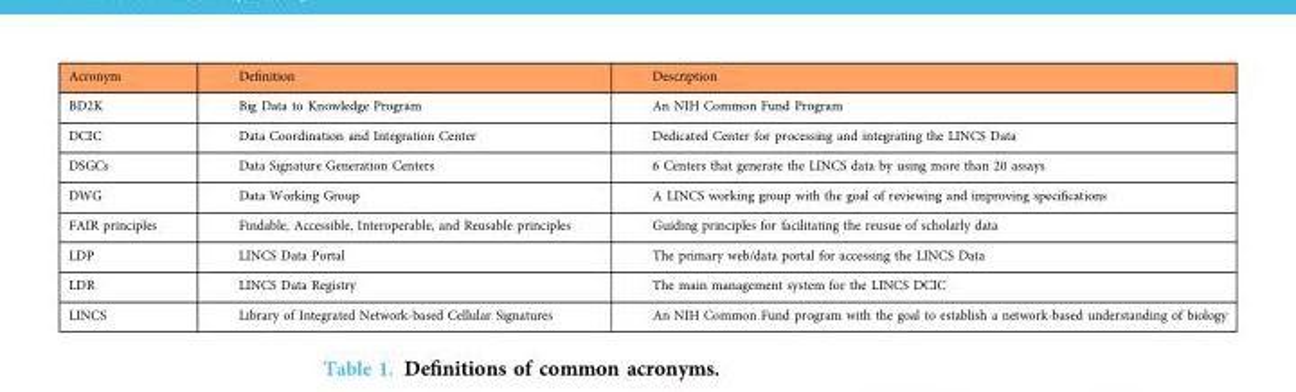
<table><thead><tr><td>Acronym</td><td>Definition</td><td>Description</td></tr></thead><tbody><tr><td>BD2K</td><td>Big Data to Knowledge Program</td><td>An NIH Common Fund Program</td></tr><tr><td>DCIC</td><td>Data Coordination and Integration Center</td><td>Dedicated Center for processing and integrating the LINCS Data</td></tr><tr><td>DSGCs</td><td>Data Signature Generation Centers</td><td>6 Centers that generate the LINCS data by using more than 20 assays</td></tr><tr><td>DWG</td><td>Data Working Group</td><td>A LINCS working group with the goal of reviewing and improving specifications</td></tr><tr><td>FAIR principles</td><td>Findable, Accessible, Interoperable, and Reusable principles</td><td>Guiding principles for facilitating the reusue of scholarly data</td></tr><tr><td>LDP</td><td>LINCS Data Portal</td><td>The primary web/data portal for accessing the LINCS Data</td></tr><tr><td>LDR</td><td>LINCS Data Registry</td><td>The main management system for the LINCS DCIC</td></tr><tr><td>LINCS</td><td>Library of Integrated Network-based Cellular Signatures</td><td>An NIH Common Fund program with the goal to establish a network-based understanding of biology</td></tr></tbody></table>